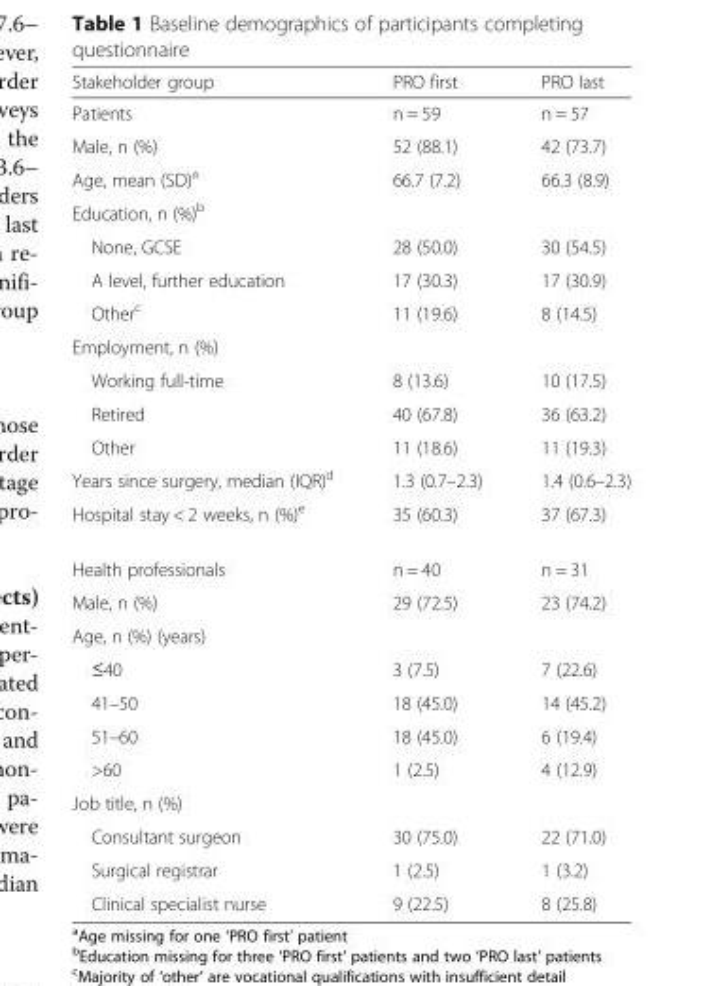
<table><thead><tr><td>Stakeholder group</td><td>PRO first</td><td>PRO last</td></tr></thead><tbody><tr><td>Patients</td><td>n = 59</td><td>n = 57</td></tr><tr><td>Male, n (%)</td><td>52 (88.1)</td><td>42 (73.7)</td></tr><tr><td>Age, mean (SD)<sup>a</sup></td><td>66.7 (7.2)</td><td>66.3 (8.9)</td></tr><tr><td colspan="3">Education, n (%)<sup>b</sup></td></tr><tr><td>None, GCSE</td><td>28 (50.0)</td><td>30 (54.5)</td></tr><tr><td>A level, further education</td><td>17 (30.3)</td><td>17 (30.9)</td></tr><tr><td>Other<sup>c</sup></td><td>11 (19.6)</td><td>8 (14.5)</td></tr><tr><td colspan="3">Employment, n (%)</td></tr><tr><td>Working full-time</td><td>8 (13.6)</td><td>10 (17.5)</td></tr><tr><td>Retired</td><td>40 (67.8)</td><td>36 (63.2)</td></tr><tr><td>Other</td><td>11 (18.6)</td><td>11 (19.3)</td></tr><tr><td>Years since surgery, median (IQR)<sup>d</sup></td><td>1.3 (0.7–2.3)</td><td>1.4 (0.6–2.3)</td></tr><tr><td>Hospital stay &lt; 2 weeks, n (%)<sup>e</sup></td><td>35 (60.3)</td><td>37 (67.3)</td></tr><tr><td>Health professionals</td><td>n = 40</td><td>n = 31</td></tr><tr><td>Male, n (%)</td><td>29 (72.5)</td><td>23 (74.2)</td></tr><tr><td colspan="3">Age, n (%) (years)</td></tr><tr><td>≤40</td><td>3 (7.5)</td><td>7 (22.6)</td></tr><tr><td>41–50</td><td>18 (45.0)</td><td>14 (45.2)</td></tr><tr><td>51–60</td><td>18 (45.0)</td><td>6 (19.4)</td></tr><tr><td>&gt;60</td><td>1 (2.5)</td><td>4 (12.9)</td></tr><tr><td colspan="3">Job title, n (%)</td></tr><tr><td>Consultant surgeon</td><td>30 (75.0)</td><td>22 (71.0)</td></tr><tr><td>Surgical registrar</td><td>1 (2.5)</td><td>1 (3.2)</td></tr><tr><td>Clinical specialist nurse</td><td>9 (22.5)</td><td>8 (25.8)</td></tr></tbody></table>